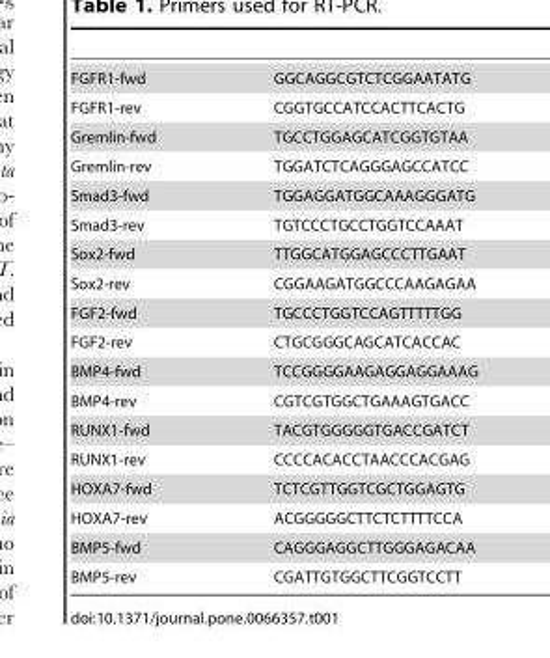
<table><tbody><tr><td>FGFR1-fwd</td><td>GGCAGGCGTCTCGGAATATG</td></tr><tr><td>FGFR1-rev</td><td>CGGTGCCATCCACTTCACTG</td></tr><tr><td>Gremlin-fwd</td><td>TGCCTGGAGCATCGGTGTAA</td></tr><tr><td>Gremlin-rev</td><td>TGGATCTCAGGGAGCCATCC</td></tr><tr><td>Smad3-fwd</td><td>TGGAGGATGGCAAAGGGATG</td></tr><tr><td>Smad3-rev</td><td>TGTCCCTGCCTGGTCCAAAT</td></tr><tr><td>Sox2-fwd</td><td>TTGGCATGGAGCCCTTGAAT</td></tr><tr><td>Sox2-rev</td><td>CGGAAGATGGCCCAAGAGAA</td></tr><tr><td>FGF2-fwd</td><td>TGCCCTGGTCCAGTTTTTGG</td></tr><tr><td>FGF2-rev</td><td>CTGCGGGCAGCATCACCAC</td></tr><tr><td>BMP4-fwd</td><td>TCCGGGGAAGAGGAGGAAAG</td></tr><tr><td>BMP4-rev</td><td>CGTCGTGGCTGAAAGTGACC</td></tr><tr><td>RUNX1-fwd</td><td>TACGTGGGGGTGACCGATCT</td></tr><tr><td>RUNX1-rev</td><td>CCCCACACCTAACCCACGAG</td></tr><tr><td>HOXA7-fwd</td><td>TCTCGTTGGTCGCTGGAGTG</td></tr><tr><td>HOXA7-rev</td><td>ACGGGGGCTTCTCTTTTCCA</td></tr><tr><td>BMP5-fwd</td><td>CAGGGAGGCTTGGGAGACAA</td></tr><tr><td>BMP5-rev</td><td>CGATTGTGGCTTCGGTCCTT</td></tr></tbody></table>